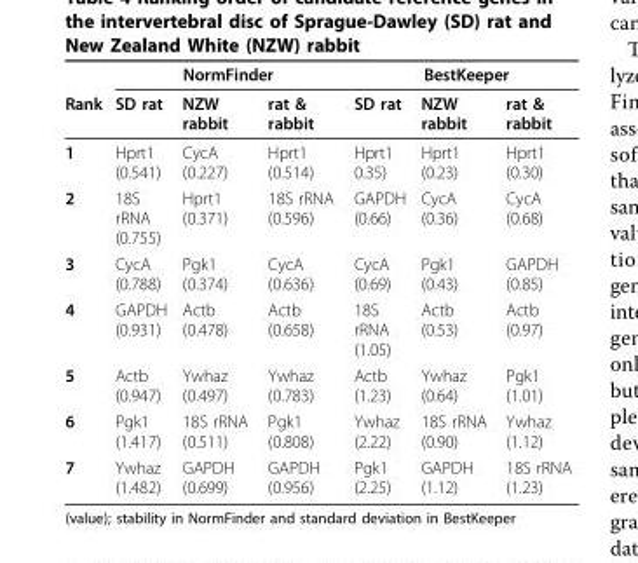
<table><thead><tr><td rowspan="2">Rank</td><td colspan="3">NormFinder</td><td colspan="3">BestKeeper</td></tr><tr><td>SD rat</td><td>NZW rabbit</td><td>rat &amp; rabbit</td><td>SD rat</td><td>NZW rabbit</td><td>rat &amp; rabbit</td></tr></thead><tbody><tr><td>1</td><td>Hprt1 (0.541)</td><td>CycA (0.227)</td><td>Hprt1 (0.514)</td><td>Hprt1 0.35)</td><td>Hprt1 (0.23)</td><td>Hprt1 (0.30)</td></tr><tr><td>2</td><td>18S rRNA (0.755)</td><td>Hprt1 (0.371)</td><td>18S rRNA (0.596)</td><td>GAPDH (0.66)</td><td>CycA (0.36)</td><td>CycA (0.68)</td></tr><tr><td>3</td><td>CycA (0.788)</td><td>Pgk1 (0.374)</td><td>CycA (0.636)</td><td>CycA (0.69)</td><td>Pgk1 (0.43)</td><td>GAPDH (0.85)</td></tr><tr><td>4</td><td>GAPDH (0.931)</td><td>Actb (0.478)</td><td>Actb (0.658)</td><td>18S rRNA (1.05)</td><td>Actb (0.53)</td><td>Actb (0.97)</td></tr><tr><td>5</td><td>Actb (0.947)</td><td>Ywhaz (0.497)</td><td>Ywhaz (0.783)</td><td>Actb (1.23)</td><td>Ywhaz (0.64)</td><td>Pgk1 (1.01)</td></tr><tr><td>6</td><td>Pgk1 (1.417)</td><td>18S rRNA (0.511)</td><td>Pgk1 (0.808)</td><td>Ywhaz (2.22)</td><td>18S rRNA (0.90)</td><td>Ywhaz (1.12)</td></tr><tr><td>7</td><td>Ywhaz (1.482)</td><td>GAPDH (0.699)</td><td>GAPDH (0.956)</td><td>Pgk1 (2.25)</td><td>GAPDH (1.12)</td><td>18S rRNA (1.23)</td></tr></tbody></table>